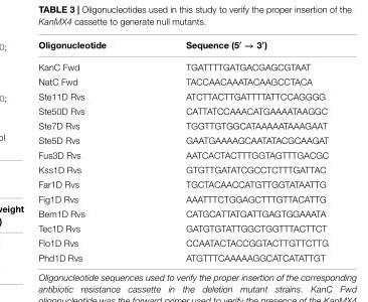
<table><thead><tr><td>Oligonucleotide</td><td>Sequence (5′ → 3′)</td></tr></thead><tbody><tr><td>KanC Fwd</td><td>TGATTTTGATGACGAGCGTAAT</td></tr><tr><td>NatC Fwd</td><td>TACCAACAAATACAAGCCTACA</td></tr><tr><td>Ste11D Rvs</td><td>ATCTTACTTGATTTTATTCCAGGGG</td></tr><tr><td>Ste50D Rvs</td><td>CATTATCCAAACATGAAAATAAGGC</td></tr><tr><td>Ste7D Rvs</td><td>TGGTTGTGGCATAAAAATAAAGAAT</td></tr><tr><td>Ste5D Rvs</td><td>GAATGAAAAGCAATATACGCAAGAT</td></tr><tr><td>Fus3D Rvs</td><td>AATCACTACTTTGGTAGTTTGACGC</td></tr><tr><td>Kss1D Rvs</td><td>GTGTTGATATCGCCTCTTTGATTAC</td></tr><tr><td>Far1D Rvs</td><td>TGCTACAACCATGTTGGTATAATTG</td></tr><tr><td>Fig1D Rvs</td><td>AAATTTCTGGAGCTTTGTTACATTG</td></tr><tr><td>Bem1D Rvs</td><td>CATGCATTATGATTGAGTGGAAATA</td></tr><tr><td>Tec1D Rvs</td><td>GATGTGTATTGGCTGGTTTACTTCT</td></tr><tr><td>Flo1D Rvs</td><td>CCAATACTACCGGTACTTGTTCTTG</td></tr><tr><td>Phd1D Rvs</td><td>ATGTTTCAAAAAGGCATCATATTGT</td></tr></tbody></table>